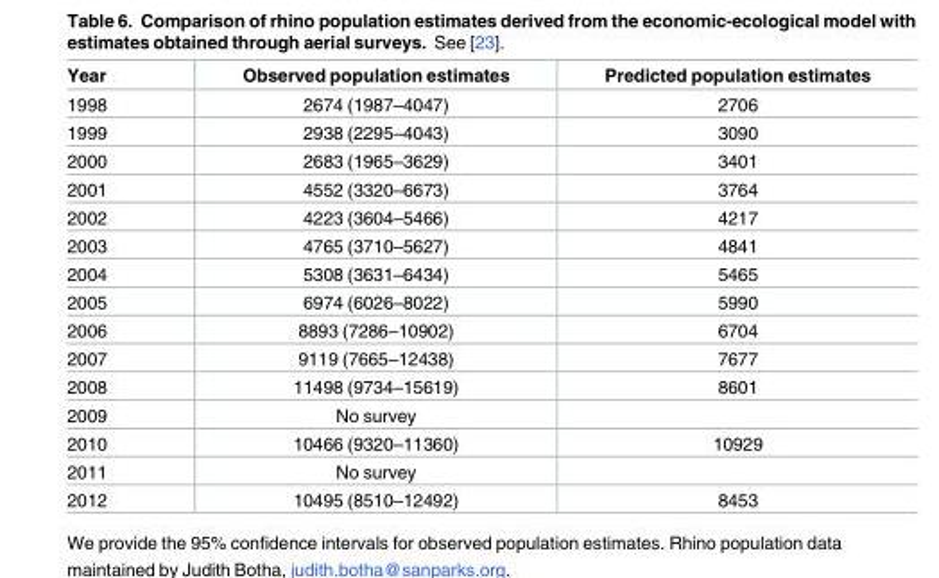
<table><thead><tr><td>Year</td><td>Observed population estimates</td><td>Predicted population estimates</td></tr></thead><tbody><tr><td>1998</td><td>2674 (1987–4047)</td><td>2706</td></tr><tr><td>1999</td><td>2938 (2295–4043)</td><td>3090</td></tr><tr><td>2000</td><td>2683 (1965–3629)</td><td>3401</td></tr><tr><td>2001</td><td>4552 (3320–6673)</td><td>3764</td></tr><tr><td>2002</td><td>4223 (3604–5466)</td><td>4217</td></tr><tr><td>2003</td><td>4765 (3710–5627)</td><td>4841</td></tr><tr><td>2004</td><td>5308 (3631–6434)</td><td>5465</td></tr><tr><td>2005</td><td>6974 (6026–8022)</td><td>5990</td></tr><tr><td>2006</td><td>8893 (7286–10902)</td><td>6704</td></tr><tr><td>2007</td><td>9119 (7665–12438)</td><td>7677</td></tr><tr><td>2008</td><td>11498 (9734–15619)</td><td>8601</td></tr><tr><td>2009</td><td>No survey</td><td></td></tr><tr><td>2010</td><td>10466 (9320–11360)</td><td>10929</td></tr><tr><td>2011</td><td>No survey</td><td></td></tr><tr><td>2012</td><td>10495 (8510–12492)</td><td>8453</td></tr></tbody></table>